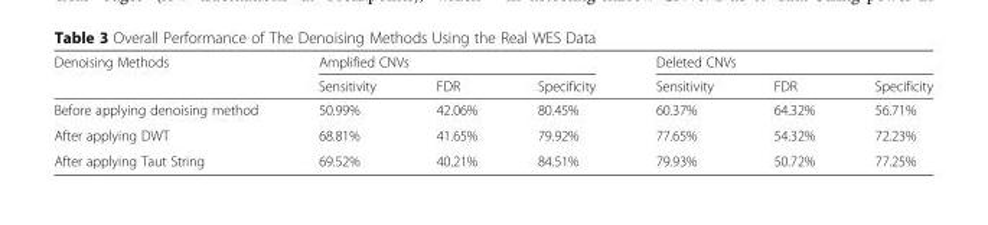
<table><thead><tr><td rowspan="2">Denoising Methods</td><td colspan="3">Amplified CNVs</td><td colspan="3">Deleted CNVs</td></tr><tr><td>Sensitivity</td><td>FDR</td><td>Specificity</td><td>Sensitivity</td><td>FDR</td><td>Specificity</td></tr></thead><tbody><tr><td>Before applying denoising method</td><td>50.99%</td><td>42.06%</td><td>80.45%</td><td>60.37%</td><td>64.32%</td><td>56.71%</td></tr><tr><td>After applying DWT</td><td>68.81%</td><td>41.65%</td><td>79.92%</td><td>77.65%</td><td>54.32%</td><td>72.23%</td></tr><tr><td>After applying Taut String</td><td>69.52%</td><td>40.21%</td><td>84.51%</td><td>79.93%</td><td>50.72%</td><td>77.25%</td></tr></tbody></table>